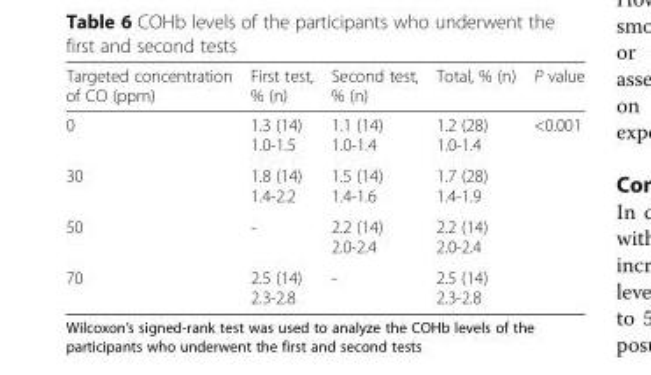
<table><thead><tr><td>Targeted concentration of CO (ppm)</td><td>First test, % (n)</td><td>Second test, % (n)</td><td>Total, % (n)</td><td>P value</td></tr></thead><tbody><tr><td>0</td><td>1.3 (14) 1.0-1.5</td><td>1.1 (14) 1.0-1.4</td><td>1.2 (28) 1.0-1.4</td><td rowspan="4">&lt;0.001</td></tr><tr><td>30</td><td>1.8 (14) 1.4-2.2</td><td>1.5 (14) 1.4-1.6</td><td>1.7 (28) 1.4-1.9</td></tr><tr><td>50</td><td>-</td><td>2.2 (14) 2.0-2.4</td><td>2.2 (14) 2.0-2.4</td></tr><tr><td>70</td><td>2.5 (14) 2.3-2.8</td><td>-</td><td>2.5 (14) 2.3-2.8</td></tr></tbody></table>